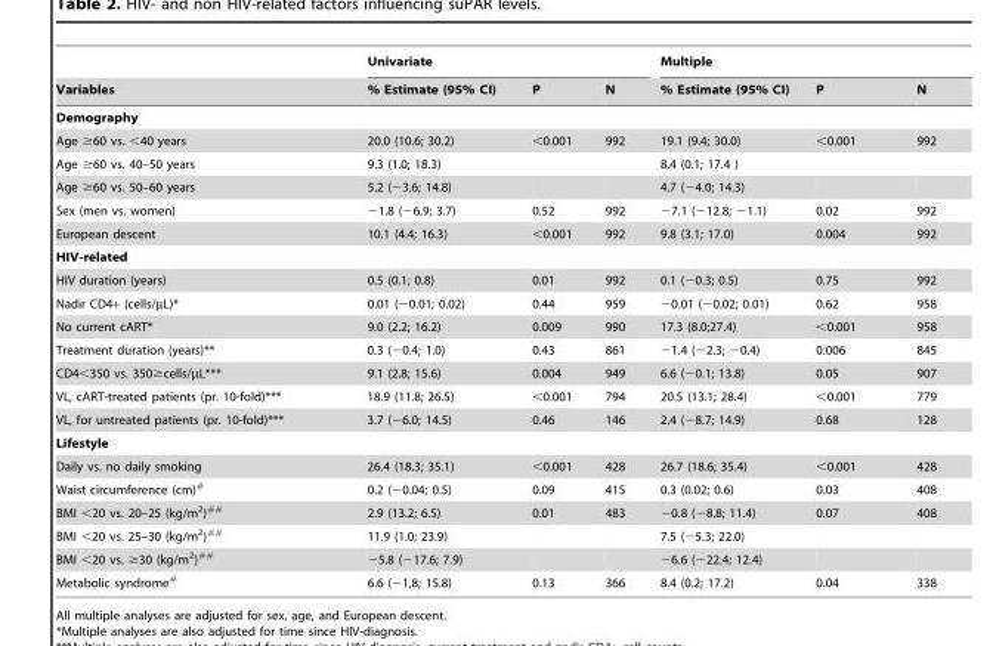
<table><thead><tr><td rowspan="2">Variables</td><td colspan="3">Univariate</td><td colspan="3">Multiple</td></tr><tr><td>% Estimate (95% CI)</td><td>P</td><td>N</td><td>% Estimate (95% CI)</td><td>P</td><td>N</td></tr></thead><tbody><tr><td colspan="7">Demography</td></tr><tr><td>Age ≥60 vs. &lt;40 years</td><td>20.0 (10.6; 30.2)</td><td>&lt;0.001</td><td>992</td><td>19.1 (9.4; 30.0)</td><td>&lt;0.001</td><td>992</td></tr><tr><td>Age ≥60 vs. 40–50 years</td><td>9.3 (1.0; 18.3)</td><td></td><td></td><td>8.4 (0.1; 17.4 )</td><td></td><td></td></tr><tr><td>Age ≥60 vs. 50–60 years</td><td>5.2 (−3.6; 14.8)</td><td></td><td></td><td>4.7 (−4.0; 14.3)</td><td></td><td></td></tr><tr><td>Sex (men vs. women)</td><td>−1.8 (−6.9; 3.7)</td><td>0.52</td><td>992</td><td>−7.1 (−12.8; −1.1)</td><td>0.02</td><td>992</td></tr><tr><td>European descent</td><td>10.1 (4.4; 16.3)</td><td>&lt;0.001</td><td>992</td><td>9.8 (3.1; 17.0)</td><td>0.004</td><td>992</td></tr><tr><td colspan="7">HIV-related</td></tr><tr><td>HIV duration (years)</td><td>0.5 (0.1; 0.8)</td><td>0.01</td><td>992</td><td>0.1 (−0.3; 0.5)</td><td>0.75</td><td>992</td></tr><tr><td>Nadir CD4+ (cells/µL)*</td><td>0.01 (−0.01; 0.02)</td><td>0.44</td><td>959</td><td>−0.01 (−0.02; 0.01)</td><td>0.62</td><td>958</td></tr><tr><td>No current cART*</td><td>9.0 (2.2; 16.2)</td><td>0.009</td><td>990</td><td>17.3 (8.0;27.4)</td><td>&lt;0.001</td><td>958</td></tr><tr><td>Treatment duration (years)**</td><td>0.3 (−0.4; 1.0)</td><td>0.43</td><td>861</td><td>−1.4 (−2.3; −0.4)</td><td>0.006</td><td>845</td></tr><tr><td>CD4&lt;350 vs. 350≥cells/µL***</td><td>9.1 (2.8; 15.6)</td><td>0.004</td><td>949</td><td>6.6 (−0.1; 13.8)</td><td>0.05</td><td>907</td></tr><tr><td>VL, cART-treated patients (pr. 10-fold)***</td><td>18.9 (11.8; 26.5)</td><td>&lt;0.001</td><td>794</td><td>20.5 (13.1; 28.4)</td><td>&lt;0.001</td><td>779</td></tr><tr><td>VL, for untreated patients (pr. 10-fold)***</td><td>3.7 (−6.0; 14.5)</td><td>0.46</td><td>146</td><td>2.4 (−8.7; 14.9)</td><td>0.68</td><td>128</td></tr><tr><td colspan="7">Lifestyle</td></tr><tr><td>Daily vs. no daily smoking</td><td>26.4 (18.3; 35.1)</td><td>&lt;0.001</td><td>428</td><td>26.7 (18.6; 35.4)</td><td>&lt;0.001</td><td>428</td></tr><tr><td>Waist circumference (cm)#</td><td>0.2 (−0.04; 0.5)</td><td>0.09</td><td>415</td><td>0.3 (0.02; 0.6)</td><td>0.03</td><td>408</td></tr><tr><td>BMI &lt;20 vs. 20–25 (kg/m<sup>2</sup>)##</td><td>2.9 (13.2; 6.5)</td><td>0.01</td><td>483</td><td>−0.8 (−8.8; 11.4)</td><td>0.07</td><td>408</td></tr><tr><td>BMI &lt;20 vs. 25–30 (kg/m<sup>2</sup>)##</td><td>11.9 (1.0; 23.9)</td><td></td><td></td><td>7.5 (−5.3; 22.0)</td><td></td><td></td></tr><tr><td>BMI &lt;20 vs. ≥30 (kg/m<sup>2</sup>)##</td><td>−5.8 (−17.6; 7.9)</td><td></td><td></td><td>−6.6 (−22.4; 12.4)</td><td></td><td></td></tr><tr><td>Metabolic syndrome#</td><td>6.6 (−1,8; 15.8)</td><td>0.13</td><td>366</td><td>8.4 (0.2; 17.2)</td><td>0.04</td><td>338</td></tr></tbody></table>